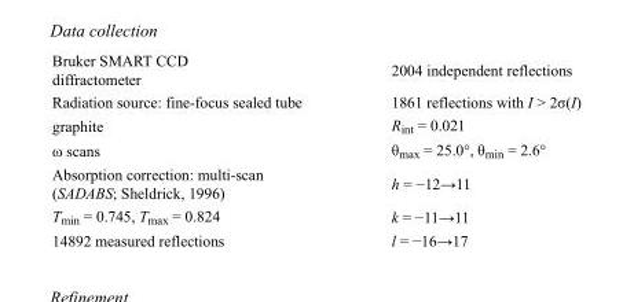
<table><tbody><tr><td>Bruker SMART CCD diffractometer</td><td>2004 independent reflections</td></tr><tr><td>Radiation source: fine-focus sealed tube</td><td>1861 reflections with I &gt; 2σ(I)</td></tr><tr><td>graphite</td><td>R<sub>int</sub> = 0.021</td></tr><tr><td>ω scans</td><td>θ<sub>max</sub> = 25.0°, θ<sub>min</sub> = 2.6°</td></tr><tr><td>Absorption correction: multi-scan (SADABS; Sheldrick, 1996)</td><td>h = −12→11</td></tr><tr><td>T<sub>min</sub> = 0.745, T<sub>max</sub> = 0.824</td><td>k = −11→11</td></tr><tr><td>14892 measured reflections</td><td>l = −16→17</td></tr></tbody></table>